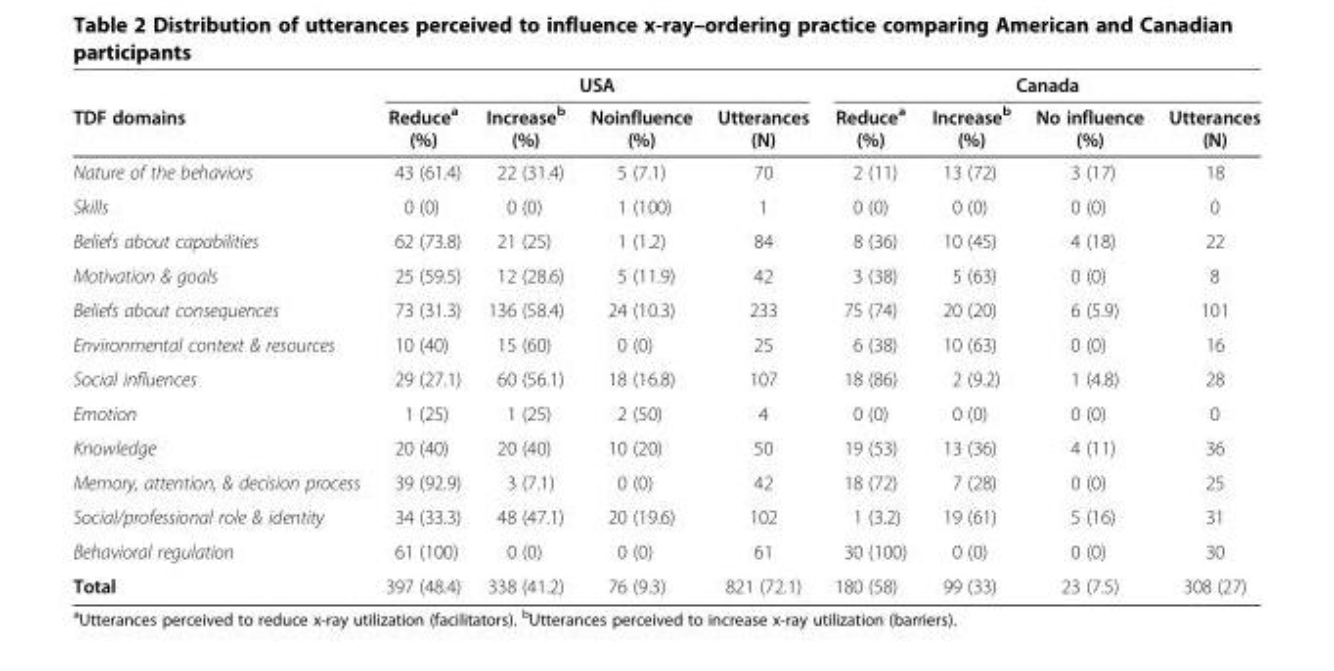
<table><thead><tr><td rowspan="2">TDF domains</td><td colspan="4">USA</td><td colspan="4">Canada</td></tr><tr><td>Reduce<sup>a</sup> (%)</td><td>Increase<sup>b</sup> (%)</td><td>Noinfluence (%)</td><td>Utterances (N)</td><td>Reduce<sup>a</sup> (%)</td><td>Increase<sup>b</sup> (%)</td><td>No influence (%)</td><td>Utterances (N)</td></tr></thead><tbody><tr><td>Nature of the behaviors</td><td>43 (61.4)</td><td>22 (31.4)</td><td>5 (7.1)</td><td>70</td><td>2 (11)</td><td>13 (72)</td><td>3 (17)</td><td>18</td></tr><tr><td>Skills</td><td>0 (0)</td><td>0 (0)</td><td>1 (100)</td><td>1</td><td>0 (0)</td><td>0 (0)</td><td>0 (0)</td><td>0</td></tr><tr><td>Beliefs about capabilities</td><td>62 (73.8)</td><td>21 (25)</td><td>1 (1.2)</td><td>84</td><td>8 (36)</td><td>10 (45)</td><td>4 (18)</td><td>22</td></tr><tr><td>Motivation &amp; goals</td><td>25 (59.5)</td><td>12 (28.6)</td><td>5 (11.9)</td><td>42</td><td>3 (38)</td><td>5 (63)</td><td>0 (0)</td><td>8</td></tr><tr><td>Beliefs about consequences</td><td>73 (31.3)</td><td>136 (58.4)</td><td>24 (10.3)</td><td>233</td><td>75 (74)</td><td>20 (20)</td><td>6 (5.9)</td><td>101</td></tr><tr><td>Environmental context &amp; resources</td><td>10 (40)</td><td>15 (60)</td><td>0 (0)</td><td>25</td><td>6 (38)</td><td>10 (63)</td><td>0 (0)</td><td>16</td></tr><tr><td>Social influences</td><td>29 (27.1)</td><td>60 (56.1)</td><td>18 (16.8)</td><td>107</td><td>18 (86)</td><td>2 (9.2)</td><td>1 (4.8)</td><td>28</td></tr><tr><td>Emotion</td><td>1 (25)</td><td>1 (25)</td><td>2 (50)</td><td>4</td><td>0 (0)</td><td>0 (0)</td><td>0 (0)</td><td>0</td></tr><tr><td>Knowledge</td><td>20 (40)</td><td>20 (40)</td><td>10 (20)</td><td>50</td><td>19 (53)</td><td>13 (36)</td><td>4 (11)</td><td>36</td></tr><tr><td>Memory, attention, &amp; decision process</td><td>39 (92.9)</td><td>3 (7.1)</td><td>0 (0)</td><td>42</td><td>18 (72)</td><td>7 (28)</td><td>0 (0)</td><td>25</td></tr><tr><td>Social/professional role &amp; identity</td><td>34 (33.3)</td><td>48 (47.1)</td><td>20 (19.6)</td><td>102</td><td>1 (3.2)</td><td>19 (61)</td><td>5 (16)</td><td>31</td></tr><tr><td>Behavioral regulation</td><td>61 (100)</td><td>0 (0)</td><td>0 (0)</td><td>61</td><td>30 (100)</td><td>0 (0)</td><td>0 (0)</td><td>30</td></tr><tr><td>Total</td><td>397 (48.4)</td><td>338 (41.2)</td><td>76 (9.3)</td><td>821 (72.1)</td><td>180 (58)</td><td>99 (33)</td><td>23 (7.5)</td><td>308 (27)</td></tr></tbody></table>